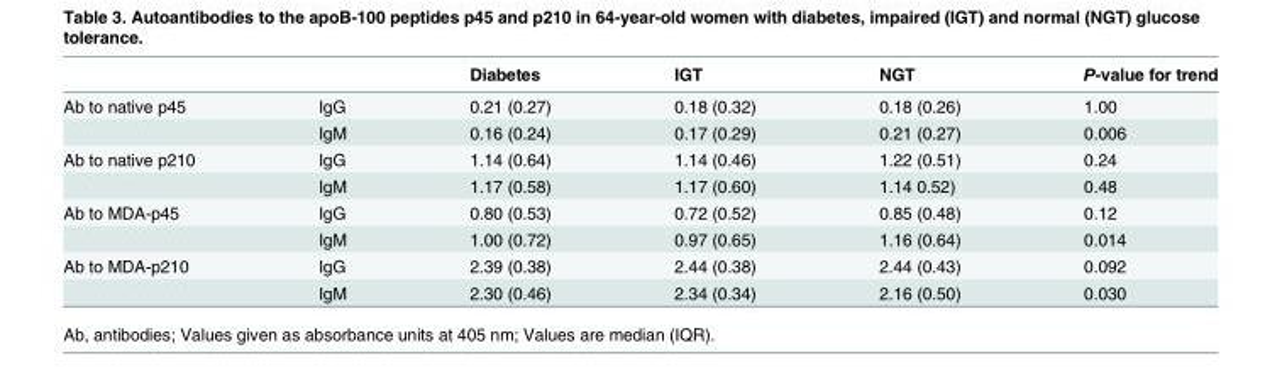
<table><thead><tr><td></td><td></td><td>Diabetes</td><td>IGT</td><td>NGT</td><td>P-value for trend</td></tr></thead><tbody><tr><td rowspan="2">Ab to native p45</td><td>IgG</td><td>0.21 (0.27)</td><td>0.18 (0.32)</td><td>0.18 (0.26)</td><td>1.00</td></tr><tr><td>IgM</td><td>0.16 (0.24)</td><td>0.17 (0.29)</td><td>0.21 (0.27)</td><td>0.006</td></tr><tr><td rowspan="2">Ab to native p210</td><td>IgG</td><td>1.14 (0.64)</td><td>1.14 (0.46)</td><td>1.22 (0.51)</td><td>0.24</td></tr><tr><td>IgM</td><td>1.17 (0.58)</td><td>1.17 (0.60)</td><td>1.14 0.52)</td><td>0.48</td></tr><tr><td rowspan="2">Ab to MDA-p45</td><td>IgG</td><td>0.80 (0.53)</td><td>0.72 (0.52)</td><td>0.85 (0.48)</td><td>0.12</td></tr><tr><td>IgM</td><td>1.00 (0.72)</td><td>0.97 (0.65)</td><td>1.16 (0.64)</td><td>0.014</td></tr><tr><td rowspan="2">Ab to MDA-p210</td><td>IgG</td><td>2.39 (0.38)</td><td>2.44 (0.38)</td><td>2.44 (0.43)</td><td>0.092</td></tr><tr><td>IgM</td><td>2.30 (0.46)</td><td>2.34 (0.34)</td><td>2.16 (0.50)</td><td>0.030</td></tr></tbody></table>